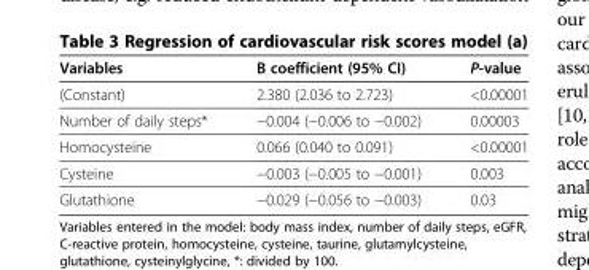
<table><thead><tr><td>Variables</td><td>B coefficient (95% CI)</td><td>P-value</td></tr></thead><tbody><tr><td>(Constant)</td><td>2.380 (2.036 to 2.723)</td><td>&lt;0.00001</td></tr><tr><td>Number of daily steps*</td><td>−0.004 (−0.006 to −0.002)</td><td>0.00003</td></tr><tr><td>Homocysteine</td><td>0.066 (0.040 to 0.091)</td><td>&lt;0.00001</td></tr><tr><td>Cysteine</td><td>−0.003 (−0.005 to −0.001)</td><td>0.003</td></tr><tr><td>Glutathione</td><td>−0.029 (−0.056 to −0.003)</td><td>0.03</td></tr></tbody></table>